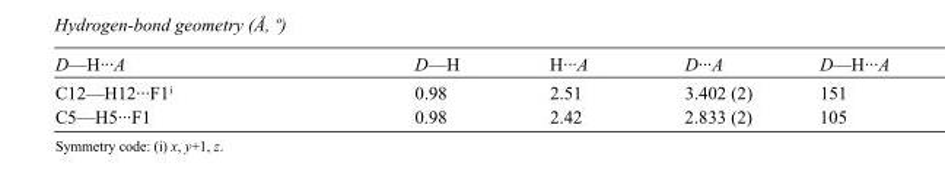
<table><tbody><tr><td>D—H···A</td><td>D—H</td><td>H···A</td><td>D···A</td><td>D—H···A</td></tr><tr><td>C12—H12···F1<sup>i</sup></td><td>0.98</td><td>2.51</td><td>3.402 (2)</td><td>151</td></tr><tr><td>C5—H5···F1</td><td>0.98</td><td>2.42</td><td>2.833 (2)</td><td>105</td></tr></tbody></table>